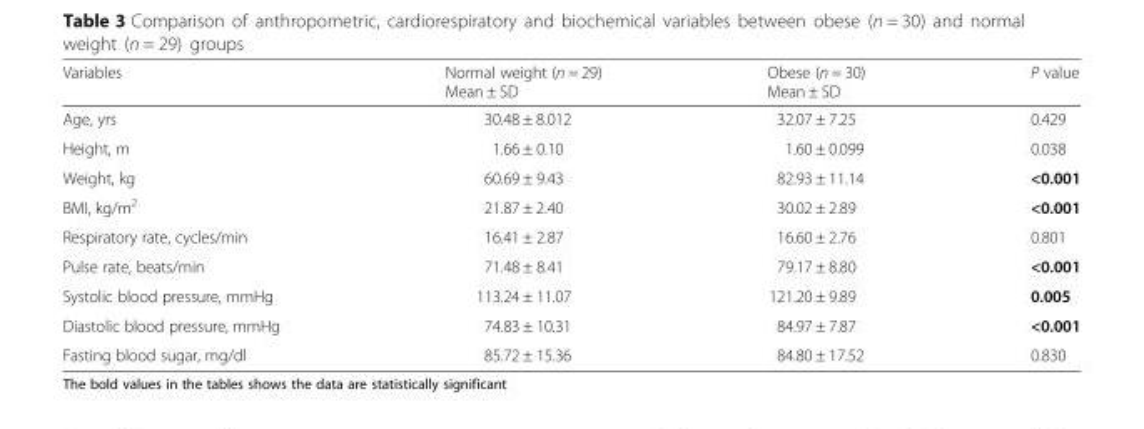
<table><thead><tr><td>Variables</td><td>Normal weight (n = 29) Mean ± SD</td><td>Obese (n = 30) Mean ± SD</td><td>P value</td></tr></thead><tbody><tr><td>Age, yrs</td><td>30.48 ± 8.012</td><td>32.07 ± 7.25</td><td>0.429</td></tr><tr><td>Height, m</td><td>1.66 ± 0.10</td><td>1.60 ± 0.099</td><td>0.038</td></tr><tr><td>Weight, kg</td><td>60.69 ± 9.43</td><td>82.93 ± 11.14</td><td>&lt;0.001</td></tr><tr><td>BMI, kg/m<sup>2</sup></td><td>21.87 ± 2.40</td><td>30.02 ± 2.89</td><td>&lt;0.001</td></tr><tr><td>Respiratory rate, cycles/min</td><td>16.41 ± 2.87</td><td>16.60 ± 2.76</td><td>0.801</td></tr><tr><td>Pulse rate, beats/min</td><td>71.48 ± 8.41</td><td>79.17 ± 8.80</td><td>&lt;0.001</td></tr><tr><td>Systolic blood pressure, mmHg</td><td>113.24 ± 11.07</td><td>121.20 ± 9.89</td><td>0.005</td></tr><tr><td>Diastolic blood pressure, mmHg</td><td>74.83 ± 10.31</td><td>84.97 ± 7.87</td><td>&lt;0.001</td></tr><tr><td>Fasting blood sugar, mg/dl</td><td>85.72 ± 15.36</td><td>84.80 ± 17.52</td><td>0.830</td></tr></tbody></table>